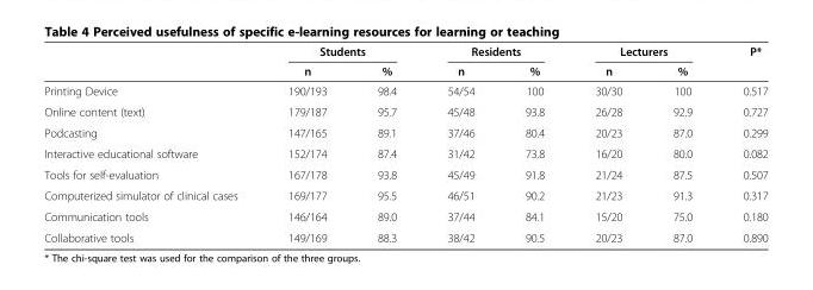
<table><thead><tr><td rowspan="2"></td><td colspan="2">Students</td><td colspan="2">Residents</td><td colspan="2">Lecturers</td><td rowspan="2">P*</td></tr><tr><td>n</td><td>%</td><td>n</td><td>%</td><td>n</td><td>%</td></tr></thead><tbody><tr><td>Printing Device</td><td>190/193</td><td>98.4</td><td>54/54</td><td>100</td><td>30/30</td><td>100</td><td>0.517</td></tr><tr><td>Online content (text)</td><td>179/187</td><td>95.7</td><td>45/48</td><td>93.8</td><td>26/28</td><td>92.9</td><td>0.727</td></tr><tr><td>Podcasting</td><td>147/165</td><td>89.1</td><td>37/46</td><td>80.4</td><td>20/23</td><td>87.0</td><td>0.299</td></tr><tr><td>Interactive educational software</td><td>152/174</td><td>87.4</td><td>31/42</td><td>73.8</td><td>16/20</td><td>80.0</td><td>0.082</td></tr><tr><td>Tools for self-evaluation</td><td>167/178</td><td>93.8</td><td>45/49</td><td>91.8</td><td>21/24</td><td>87.5</td><td>0.507</td></tr><tr><td>Computerized simulator of clinical cases</td><td>169/177</td><td>95.5</td><td>46/51</td><td>90.2</td><td>21/23</td><td>91.3</td><td>0.317</td></tr><tr><td>Communication tools</td><td>146/164</td><td>89.0</td><td>37/44</td><td>84.1</td><td>15/20</td><td>75.0</td><td>0.180</td></tr><tr><td>Collaborative tools</td><td>149/169</td><td>88.3</td><td>38/42</td><td>90.5</td><td>20/23</td><td>87.0</td><td>0.890</td></tr></tbody></table>